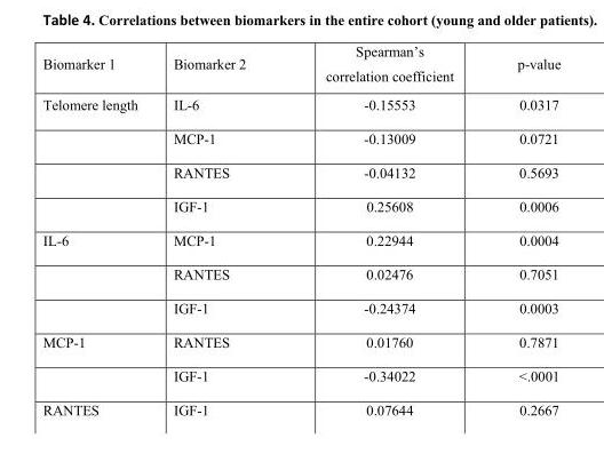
<table><thead><tr><td>Biomarker 1</td><td>Biomarker 2</td><td>Spearman’s correlation coefficient</td><td>p-value</td></tr></thead><tbody><tr><td rowspan="4">Telomere length</td><td>IL-6</td><td>-0.15553</td><td>0.0317</td></tr><tr><td>MCP-1</td><td>-0.13009</td><td>0.0721</td></tr><tr><td>RANTES</td><td>-0.04132</td><td>0.5693</td></tr><tr><td>IGF-1</td><td>0.25608</td><td>0.0006</td></tr><tr><td rowspan="3">IL-6</td><td>MCP-1</td><td>0.22944</td><td>0.0004</td></tr><tr><td>RANTES</td><td>0.02476</td><td>0.7051</td></tr><tr><td>IGF-1</td><td>-0.24374</td><td>0.0003</td></tr><tr><td rowspan="2">MCP-1</td><td>RANTES</td><td>0.01760</td><td>0.7871</td></tr><tr><td>IGF-1</td><td>-0.34022</td><td>&lt;.0001</td></tr><tr><td>RANTES</td><td>IGF-1</td><td>0.07644</td><td>0.2667</td></tr></tbody></table>